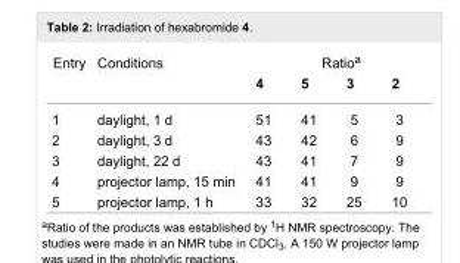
<table><tbody><tr><td rowspan="2">Entry</td><td>Conditions</td><td colspan="4">Ratio<sup>a</sup></td></tr><tr><td></td><td>4</td><td>5</td><td>3</td><td>2</td></tr><tr><td>1</td><td>daylight, 1 d</td><td>51</td><td>41</td><td>5</td><td>3</td></tr><tr><td>2</td><td>daylight, 3 d</td><td>43</td><td>42</td><td>6</td><td>9</td></tr><tr><td>3</td><td>daylight, 22 d</td><td>43</td><td>41</td><td>7</td><td>9</td></tr><tr><td>4</td><td>projector lamp, 15 min</td><td>41</td><td>41</td><td>9</td><td>9</td></tr><tr><td>5</td><td>projector lamp, 1 h</td><td>33</td><td>32</td><td>25</td><td>10</td></tr></tbody></table>